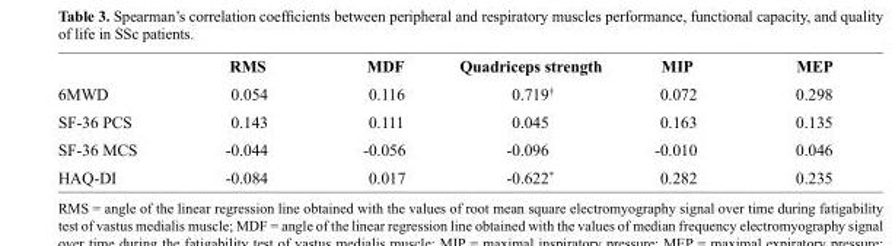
<table><thead><tr><td></td><td>RMS</td><td>MDF</td><td>Quadriceps strength</td><td>MIP</td><td>MEP</td></tr></thead><tbody><tr><td>6MWD</td><td>0.054</td><td>0.116</td><td>0.719<sup>†</sup></td><td>0.072</td><td>0.298</td></tr><tr><td>SF-36 PCS</td><td>0.143</td><td>0.111</td><td>0.045</td><td>0.163</td><td>0.135</td></tr><tr><td>SF-36 MCS</td><td>-0.044</td><td>-0.056</td><td>-0.096</td><td>-0.010</td><td>0.046</td></tr><tr><td>HAQ-DI</td><td>-0.084</td><td>0.017</td><td>-0.622*</td><td>0.282</td><td>0.235</td></tr></tbody></table>